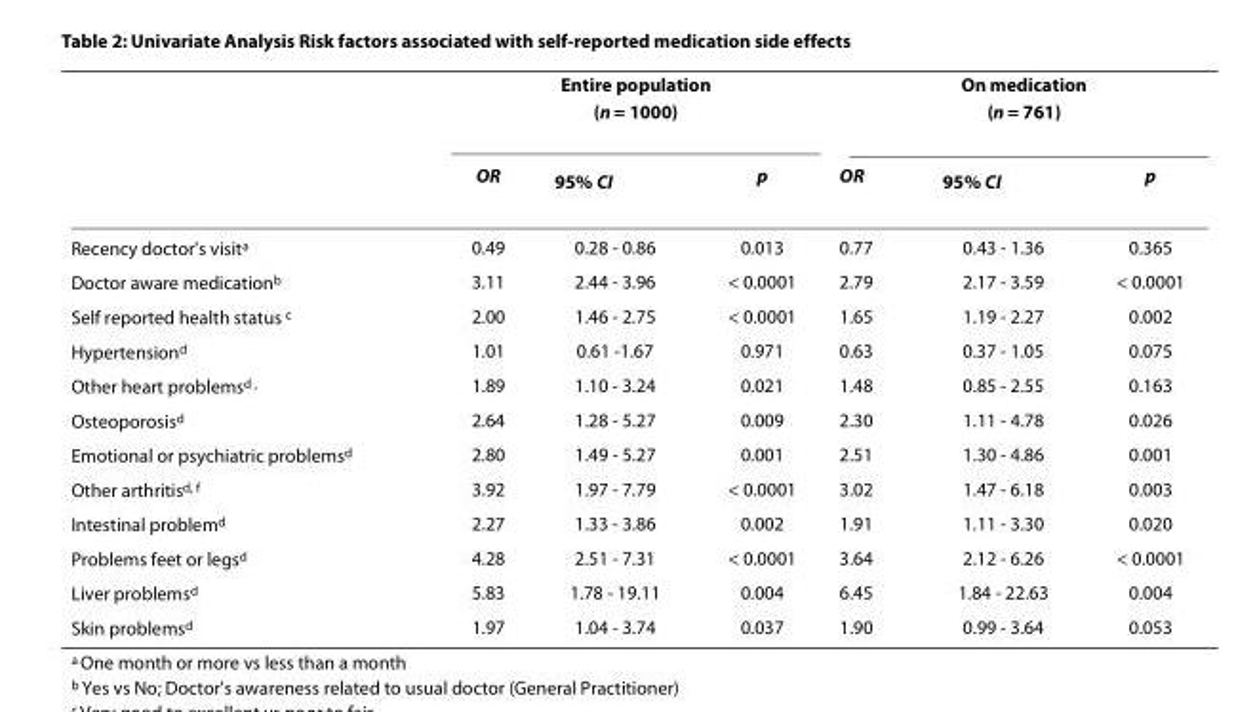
<table><thead><tr><td rowspan="2"></td><td colspan="3">Entire population (n = 1000)</td><td colspan="3">On medication (n = 761)</td></tr><tr><td>OR</td><td>95% CI</td><td>p</td><td>OR</td><td>95% CI</td><td>p</td></tr></thead><tbody><tr><td>Recency doctor&#x27;s visit<sup>a</sup></td><td>0.49</td><td>0.28 - 0.86</td><td>0.013</td><td>0.77</td><td>0.43 - 1.36</td><td>0.365</td></tr><tr><td>Doctor aware medication<sup>b</sup></td><td>3.11</td><td>2.44 - 3.96</td><td>&lt; 0.0001</td><td>2.79</td><td>2.17 - 3.59</td><td>&lt; 0.0001</td></tr><tr><td>Self reported health status <sup>c</sup></td><td>2.00</td><td>1.46 - 2.75</td><td>&lt; 0.0001</td><td>1.65</td><td>1.19 - 2.27</td><td>0.002</td></tr><tr><td>Hypertension<sup>d</sup></td><td>1.01</td><td>0.61 -1.67</td><td>0.971</td><td>0.63</td><td>0.37 - 1.05</td><td>0.075</td></tr><tr><td>Other heart problems<sup>d ,</sup></td><td>1.89</td><td>1.10 - 3.24</td><td>0.021</td><td>1.48</td><td>0.85 - 2.55</td><td>0.163</td></tr><tr><td>Osteoporosis<sup>d</sup></td><td>2.64</td><td>1.28 - 5.27</td><td>0.009</td><td>2.30</td><td>1.11 - 4.78</td><td>0.026</td></tr><tr><td>Emotional or psychiatric problems<sup>d</sup></td><td>2.80</td><td>1.49 - 5.27</td><td>0.001</td><td>2.51</td><td>1.30 - 4.86</td><td>0.001</td></tr><tr><td>Other arthritis<sup>d, f</sup></td><td>3.92</td><td>1.97 - 7.79</td><td>&lt; 0.0001</td><td>3.02</td><td>1.47 - 6.18</td><td>0.003</td></tr><tr><td>Intestinal problem<sup>d</sup></td><td>2.27</td><td>1.33 - 3.86</td><td>0.002</td><td>1.91</td><td>1.11 - 3.30</td><td>0.020</td></tr><tr><td>Problems feet or legs<sup>d</sup></td><td>4.28</td><td>2.51 - 7.31</td><td>&lt; 0.0001</td><td>3.64</td><td>2.12 - 6.26</td><td>&lt; 0.0001</td></tr><tr><td>Liver problems<sup>d</sup></td><td>5.83</td><td>1.78 - 19.11</td><td>0.004</td><td>6.45</td><td>1.84 - 22.63</td><td>0.004</td></tr><tr><td>Skin problems<sup>d</sup></td><td>1.97</td><td>1.04 - 3.74</td><td>0.037</td><td>1.90</td><td>0.99 - 3.64</td><td>0.053</td></tr></tbody></table>